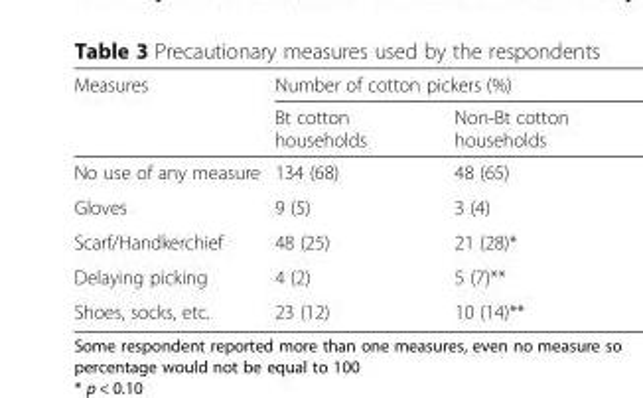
<table><thead><tr><td rowspan="2">Measures</td><td colspan="2">Number of cotton pickers (%)</td></tr><tr><td>Bt cotton households</td><td>Non-Bt cotton households</td></tr></thead><tbody><tr><td>No use of any measure</td><td>134 (68)</td><td>48 (65)</td></tr><tr><td>Gloves</td><td>9 (5)</td><td>3 (4)</td></tr><tr><td>Scarf/Handkerchief</td><td>48 (25)</td><td>21 (28)*</td></tr><tr><td>Delaying picking</td><td>4 (2)</td><td>5 (7)**</td></tr><tr><td>Shoes, socks, etc.</td><td>23 (12)</td><td>10 (14)**</td></tr></tbody></table>